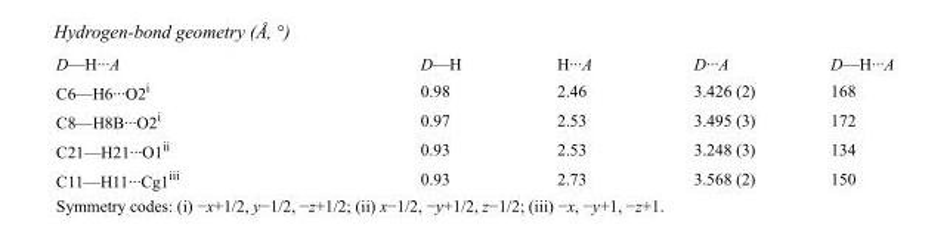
<table><tbody><tr><td>D—H···A</td><td>D—H</td><td>H···A</td><td>D···A</td><td>D—H···A</td></tr><tr><td>C6—H6···O2<sup>i</sup></td><td>0.98</td><td>2.46</td><td>3.426 (2)</td><td>168</td></tr><tr><td>C8—H8B···O2<sup>i</sup></td><td>0.97</td><td>2.53</td><td>3.495 (3)</td><td>172</td></tr><tr><td>C21—H21···O1<sup>ii</sup></td><td>0.93</td><td>2.53</td><td>3.248 (3)</td><td>134</td></tr><tr><td>C11—H11···Cg1<sup>iii</sup></td><td>0.93</td><td>2.73</td><td>3.568 (2)</td><td>150</td></tr></tbody></table>